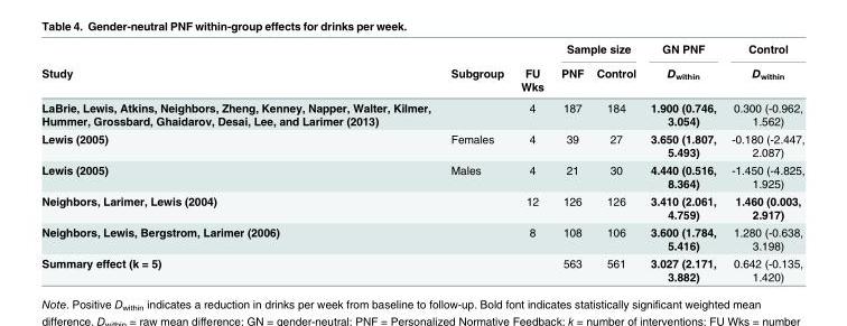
<table><thead><tr><td rowspan="2">Study</td><td rowspan="2">Subgroup</td><td rowspan="2">FU Wks</td><td colspan="2">Sample size</td><td rowspan="2">GN PNF D<sub>within</sub></td><td rowspan="2">Control D<sub>within</sub></td></tr><tr><td>PNF</td><td>Control</td></tr></thead><tbody><tr><td>LaBrie, Lewis, Atkins, Neighbors, Zheng, Kenney, Napper, Walter, Kilmer, Hummer, Grossbard, Ghaidarov, Desai, Lee, and Larimer (2013)</td><td></td><td>4</td><td>187</td><td>184</td><td>1.900 (0.746, 3.054)</td><td>0.300 (-0.962, 1.562)</td></tr><tr><td>Lewis (2005)</td><td>Females</td><td>4</td><td>39</td><td>27</td><td>3.650 (1.807, 5.493)</td><td>-0.180 (-2.447, 2.087)</td></tr><tr><td>Lewis (2005)</td><td>Males</td><td>4</td><td>21</td><td>30</td><td>4.440 (0.516, 8.364)</td><td>-1.450 (-4.825, 1.925)</td></tr><tr><td>Neighbors, Larimer, Lewis (2004)</td><td></td><td>12</td><td>126</td><td>126</td><td>3.410 (2.061, 4.759)</td><td>1.460 (0.003, 2.917)</td></tr><tr><td>Neighbors, Lewis, Bergstrom, Larimer (2006)</td><td></td><td>8</td><td>108</td><td>106</td><td>3.600 (1.784, 5.416)</td><td>1.280 (-0.638, 3.198)</td></tr><tr><td>Summary effect (k = 5)</td><td></td><td></td><td>563</td><td>561</td><td>3.027 (2.171, 3.882)</td><td>0.642 (-0.135, 1.420)</td></tr></tbody></table>